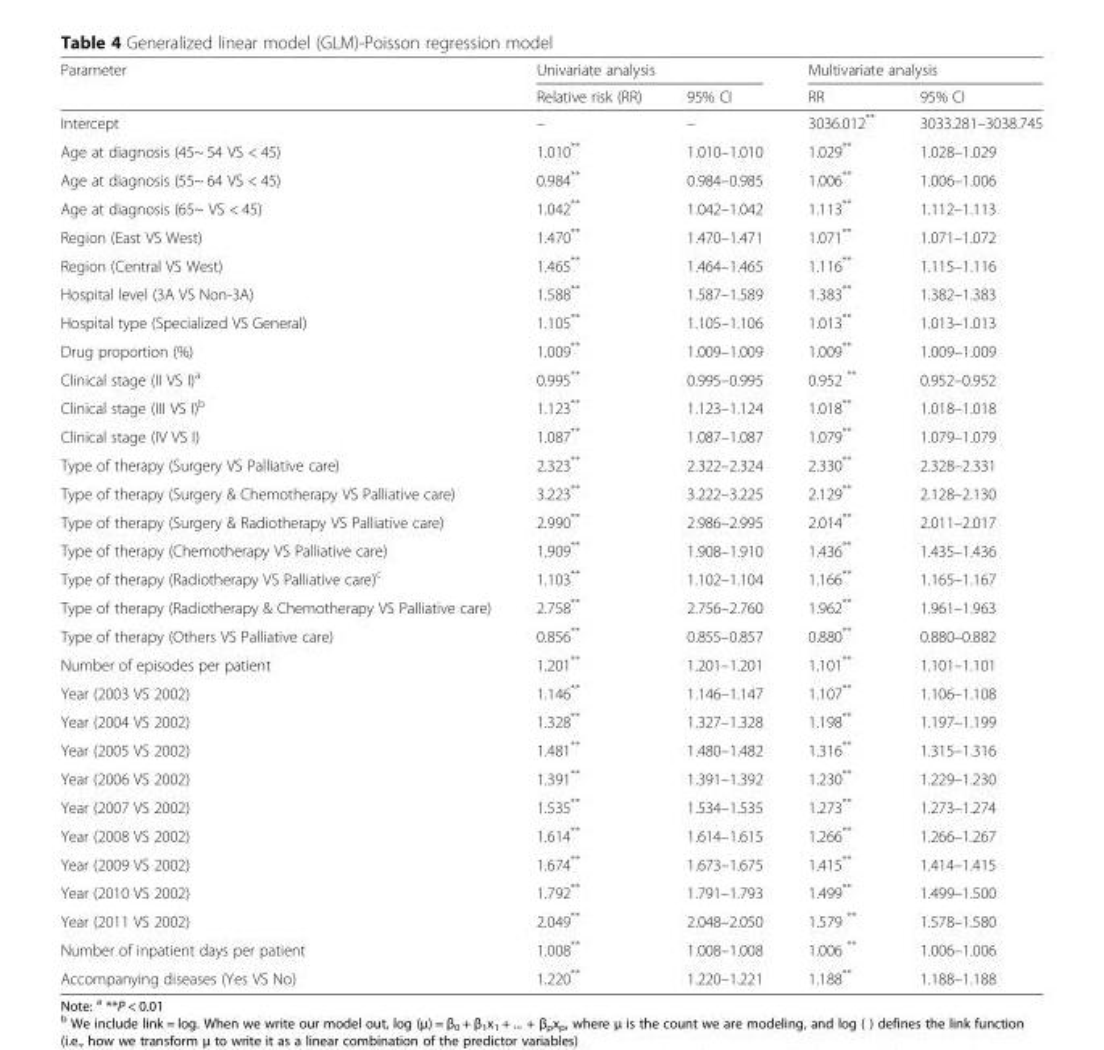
<table><thead><tr><td rowspan="2">Parameter</td><td colspan="2">Univariate analysis</td><td colspan="2">Multivariate analysis</td></tr><tr><td>Relative risk (RR)</td><td>95% CI</td><td>RR</td><td>95% CI</td></tr></thead><tbody><tr><td>Intercept</td><td>–</td><td>–</td><td>3036.012**</td><td>3033.281–3038.745</td></tr><tr><td>Age at diagnosis (45~ 54 VS &lt; 45)</td><td>1.010**</td><td>1.010–1.010</td><td>1.029**</td><td>1.028–1.029</td></tr><tr><td>Age at diagnosis (55~ 64 VS &lt; 45)</td><td>0.984**</td><td>0.984–0.985</td><td>1.006**</td><td>1.006–1.006</td></tr><tr><td>Age at diagnosis (65~ VS &lt; 45)</td><td>1.042**</td><td>1.042–1.042</td><td>1.113**</td><td>1.112–1.113</td></tr><tr><td>Region (East VS West)</td><td>1.470**</td><td>1.470–1.471</td><td>1.071**</td><td>1.071–1.072</td></tr><tr><td>Region (Central VS West)</td><td>1.465**</td><td>1.464–1.465</td><td>1.116**</td><td>1.115–1.116</td></tr><tr><td>Hospital level (3A VS Non-3A)</td><td>1.588**</td><td>1.587–1.589</td><td>1.383**</td><td>1.382–1.383</td></tr><tr><td>Hospital type (Specialized VS General)</td><td>1.105**</td><td>1.105–1.106</td><td>1.013**</td><td>1.013–1.013</td></tr><tr><td>Drug proportion (%)</td><td>1.009**</td><td>1.009–1.009</td><td>1.009**</td><td>1.009–1.009</td></tr><tr><td>Clinical stage (II VS I)<sup>a</sup></td><td>0.995**</td><td>0.995–0.995</td><td>0.952 **</td><td>0.952–0.952</td></tr><tr><td>Clinical stage (III VS I)<sup>b</sup></td><td>1.123**</td><td>1.123–1.124</td><td>1.018**</td><td>1.018–1.018</td></tr><tr><td>Clinical stage (IV VS I)</td><td>1.087**</td><td>1.087–1.087</td><td>1.079**</td><td>1.079–1.079</td></tr><tr><td>Type of therapy (Surgery VS Palliative care)</td><td>2.323**</td><td>2.322–2.324</td><td>2.330**</td><td>2.328–2.331</td></tr><tr><td>Type of therapy (Surgery &amp; Chemotherapy VS Palliative care)</td><td>3.223**</td><td>3.222–3.225</td><td>2.129**</td><td>2.128–2.130</td></tr><tr><td>Type of therapy (Surgery &amp; Radiotherapy VS Palliative care)</td><td>2.990**</td><td>2.986–2.995</td><td>2.014**</td><td>2.011–2.017</td></tr><tr><td>Type of therapy (Chemotherapy VS Palliative care)</td><td>1.909**</td><td>1.908–1.910</td><td>1.436**</td><td>1.435–1.436</td></tr><tr><td>Type of therapy (Radiotherapy VS Palliative care)<sup>c</sup></td><td>1.103**</td><td>1.102–1.104</td><td>1.166**</td><td>1.165–1.167</td></tr><tr><td>Type of therapy (Radiotherapy &amp; Chemotherapy VS Palliative care)</td><td>2.758**</td><td>2.756–2.760</td><td>1.962**</td><td>1.961–1.963</td></tr><tr><td>Type of therapy (Others VS Palliative care)</td><td>0.856**</td><td>0.855–0.857</td><td>0.880**</td><td>0.880–0.882</td></tr><tr><td>Number of episodes per patient</td><td>1.201**</td><td>1.201–1.201</td><td>1.101**</td><td>1.101–1.101</td></tr><tr><td>Year (2003 VS 2002)</td><td>1.146**</td><td>1.146–1.147</td><td>1.107**</td><td>1.106–1.108</td></tr><tr><td>Year (2004 VS 2002)</td><td>1.328**</td><td>1.327–1.328</td><td>1.198**</td><td>1.197–1.199</td></tr><tr><td>Year (2005 VS 2002)</td><td>1.481**</td><td>1.480–1.482</td><td>1.316**</td><td>1.315–1.316</td></tr><tr><td>Year (2006 VS 2002)</td><td>1.391**</td><td>1.391–1.392</td><td>1.230**</td><td>1.229–1.230</td></tr><tr><td>Year (2007 VS 2002)</td><td>1.535**</td><td>1.534–1.535</td><td>1.273**</td><td>1.273–1.274</td></tr><tr><td>Year (2008 VS 2002)</td><td>1.614**</td><td>1.614–1.615</td><td>1.266**</td><td>1.266–1.267</td></tr><tr><td>Year (2009 VS 2002)</td><td>1.674**</td><td>1.673–1.675</td><td>1.415**</td><td>1.414–1.415</td></tr><tr><td>Year (2010 VS 2002)</td><td>1.792**</td><td>1.791–1.793</td><td>1.499**</td><td>1.499–1.500</td></tr><tr><td>Year (2011 VS 2002)</td><td>2.049**</td><td>2.048–2.050</td><td>1.579 **</td><td>1.578–1.580</td></tr><tr><td>Number of inpatient days per patient</td><td>1.008**</td><td>1.008–1.008</td><td>1.006 **</td><td>1.006–1.006</td></tr><tr><td>Accompanying diseases (Yes VS No)</td><td>1.220**</td><td>1.220–1.221</td><td>1.188**</td><td>1.188–1.188</td></tr></tbody></table>